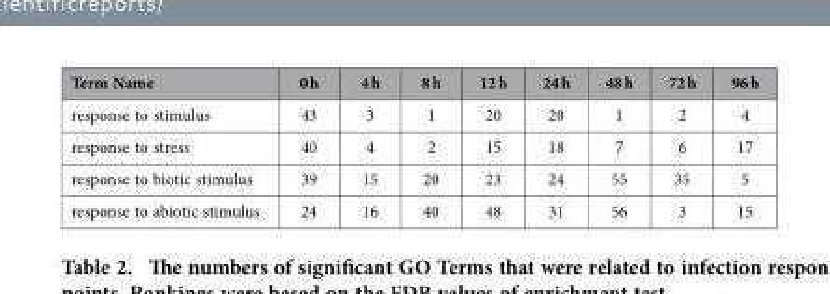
<table><thead><tr><td>Term Name</td><td>0 h</td><td>4 h</td><td>8 h</td><td>12 h</td><td>24 h</td><td>48 h</td><td>72 h</td><td>96 h</td></tr></thead><tbody><tr><td>response to stimulus</td><td>43</td><td>3</td><td>1</td><td>20</td><td>20</td><td>1</td><td>2</td><td>4</td></tr><tr><td>response to stress</td><td>40</td><td>4</td><td>2</td><td>15</td><td>18</td><td>7</td><td>6</td><td>17</td></tr><tr><td>response to biotic stimulus</td><td>39</td><td>15</td><td>20</td><td>23</td><td>24</td><td>55</td><td>35</td><td>5</td></tr><tr><td>response to abiotic stimulus</td><td>24</td><td>16</td><td>40</td><td>48</td><td>31</td><td>56</td><td>3</td><td>15</td></tr></tbody></table>